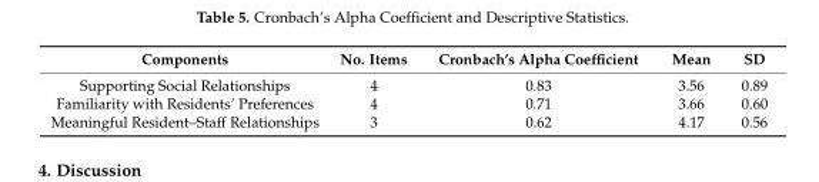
<table><thead><tr><td>Components</td><td>No. Items</td><td>Cronbach’s Alpha Coefficient</td><td>Mean</td><td>SD</td></tr></thead><tbody><tr><td>Supporting Social Relationships</td><td>4</td><td>0.83</td><td>3.56</td><td>0.89</td></tr><tr><td>Familiarity with Residents’ Preferences</td><td>4</td><td>0.71</td><td>3.66</td><td>0.60</td></tr><tr><td>Meaningful Resident–Staff Relationships</td><td>3</td><td>0.62</td><td>4.17</td><td>0.56</td></tr></tbody></table>